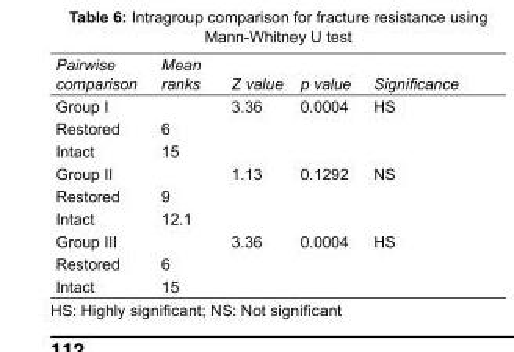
<table><tbody><tr><td>Pairwise comparison</td><td>Mean ranks</td><td>Z value</td><td>p value</td><td>Significance</td></tr><tr><td>Group I</td><td></td><td>3.36</td><td>0.0004</td><td>HS</td></tr><tr><td>Restored</td><td>6</td><td></td><td></td><td></td></tr><tr><td>Intact</td><td>15</td><td></td><td></td><td></td></tr><tr><td>Group II</td><td></td><td>1.13</td><td>0.1292</td><td>NS</td></tr><tr><td>Restored</td><td>9</td><td></td><td></td><td></td></tr><tr><td>Intact</td><td>12.1</td><td></td><td></td><td></td></tr><tr><td>Group III</td><td></td><td>3.36</td><td>0.0004</td><td>HS</td></tr><tr><td>Restored</td><td>6</td><td></td><td></td><td></td></tr><tr><td>Intact</td><td>15</td><td></td><td></td><td></td></tr></tbody></table>